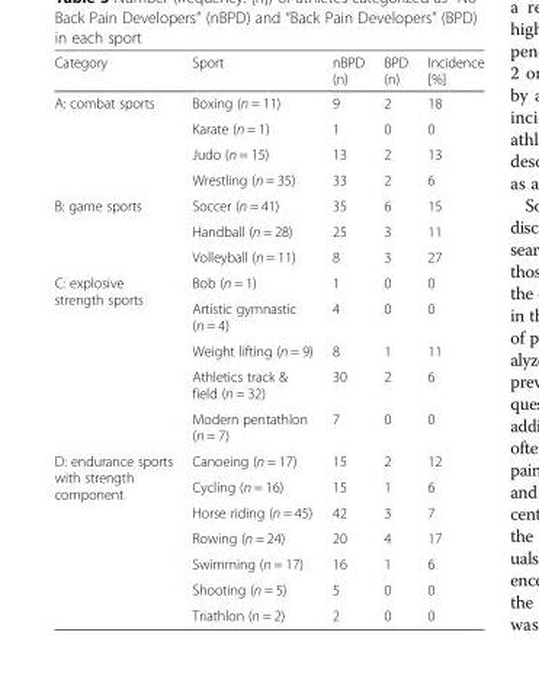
<table><thead><tr><td>Category</td><td>Sport</td><td>nBPD (n)</td><td>BPD (n)</td><td>Incidence [%]</td></tr></thead><tbody><tr><td rowspan="4">A: combat sports</td><td>Boxing (n = 11)</td><td>9</td><td>2</td><td>18</td></tr><tr><td>Karate (n = 1)</td><td>1</td><td>0</td><td>0</td></tr><tr><td>Judo (n = 15)</td><td>13</td><td>2</td><td>13</td></tr><tr><td>Wrestling (n = 35)</td><td>33</td><td>2</td><td>6</td></tr><tr><td rowspan="3">B: game sports</td><td>Soccer (n = 41)</td><td>35</td><td>6</td><td>15</td></tr><tr><td>Handball (n = 28)</td><td>25</td><td>3</td><td>11</td></tr><tr><td>Volleyball (n = 11)</td><td>8</td><td>3</td><td>27</td></tr><tr><td rowspan="5">C: explosive strength sports</td><td>Bob (n = 1)</td><td>1</td><td>0</td><td>0</td></tr><tr><td>Artistic gymnastic (n = 4)</td><td>4</td><td>0</td><td>0</td></tr><tr><td>Weight lifting (n = 9)</td><td>8</td><td>1</td><td>11</td></tr><tr><td>Athletics track &amp; field (n = 32)</td><td>30</td><td>2</td><td>6</td></tr><tr><td>Modern pentathlon (n = 7)</td><td>7</td><td>0</td><td>0</td></tr><tr><td rowspan="7">D: endurance sports with strength component</td><td>Canoeing (n = 17)</td><td>15</td><td>2</td><td>12</td></tr><tr><td>Cycling (n = 16)</td><td>15</td><td>1</td><td>6</td></tr><tr><td>Horse riding (n = 45)</td><td>42</td><td>3</td><td>7</td></tr><tr><td>Rowing (n = 24)</td><td>20</td><td>4</td><td>17</td></tr><tr><td>Swimming (n = 17)</td><td>16</td><td>1</td><td>6</td></tr><tr><td>Shooting (n = 5)</td><td>5</td><td>0</td><td>0</td></tr><tr><td>Triathlon (n = 2)</td><td>2</td><td>0</td><td>0</td></tr></tbody></table>